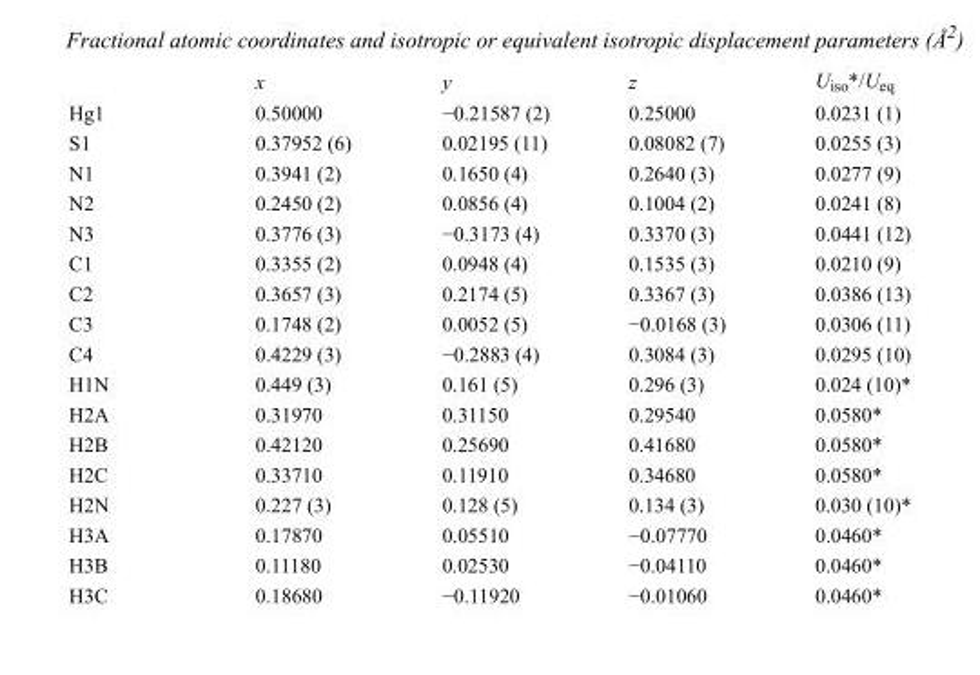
<table><thead><tr><td></td><td>x</td><td>y</td><td>z</td><td>U<sub>iso</sub>*/U<sub>eq</sub></td></tr></thead><tbody><tr><td>Hg1</td><td>0.50000</td><td>−0.21587 (2)</td><td>0.25000</td><td>0.0231 (1)</td></tr><tr><td>S1</td><td>0.37952 (6)</td><td>0.02195 (11)</td><td>0.08082 (7)</td><td>0.0255 (3)</td></tr><tr><td>N1</td><td>0.3941 (2)</td><td>0.1650 (4)</td><td>0.2640 (3)</td><td>0.0277 (9)</td></tr><tr><td>N2</td><td>0.2450 (2)</td><td>0.0856 (4)</td><td>0.1004 (2)</td><td>0.0241 (8)</td></tr><tr><td>N3</td><td>0.3776 (3)</td><td>−0.3173 (4)</td><td>0.3370 (3)</td><td>0.0441 (12)</td></tr><tr><td>C1</td><td>0.3355 (2)</td><td>0.0948 (4)</td><td>0.1535 (3)</td><td>0.0210 (9)</td></tr><tr><td>C2</td><td>0.3657 (3)</td><td>0.2174 (5)</td><td>0.3367 (3)</td><td>0.0386 (13)</td></tr><tr><td>C3</td><td>0.1748 (2)</td><td>0.0052 (5)</td><td>−0.0168 (3)</td><td>0.0306 (11)</td></tr><tr><td>C4</td><td>0.4229 (3)</td><td>−0.2883 (4)</td><td>0.3084 (3)</td><td>0.0295 (10)</td></tr><tr><td>H1N</td><td>0.449 (3)</td><td>0.161 (5)</td><td>0.296 (3)</td><td>0.024 (10)*</td></tr><tr><td>H2A</td><td>0.31970</td><td>0.31150</td><td>0.29540</td><td>0.0580*</td></tr><tr><td>H2B</td><td>0.42120</td><td>0.25690</td><td>0.41680</td><td>0.0580*</td></tr><tr><td>H2C</td><td>0.33710</td><td>0.11910</td><td>0.34680</td><td>0.0580*</td></tr><tr><td>H2N</td><td>0.227 (3)</td><td>0.128 (5)</td><td>0.134 (3)</td><td>0.030 (10)*</td></tr><tr><td>H3A</td><td>0.17870</td><td>0.05510</td><td>−0.07770</td><td>0.0460*</td></tr><tr><td>H3B</td><td>0.11180</td><td>0.02530</td><td>−0.04110</td><td>0.0460*</td></tr><tr><td>H3C</td><td>0.18680</td><td>−0.11920</td><td>−0.01060</td><td>0.0460*</td></tr></tbody></table>